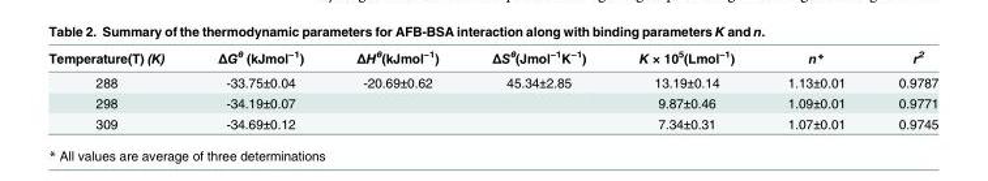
<table><thead><tr><td>Temperature(T) (K)</td><td>ΔG<sup>θ</sup> (kJmol<sup>−1</sup>)</td><td>ΔH<sup>θ</sup>(kJmol<sup>−1</sup>)</td><td>ΔS<sup>θ</sup>(Jmol<sup>−1</sup>K<sup>−1</sup>)</td><td>K × 10<sup>5</sup>(Lmol<sup>−1</sup>)</td><td>n*</td><td>r<sup>2</sup></td></tr></thead><tbody><tr><td>288</td><td>-33.75±0.04</td><td>-20.69±0.62</td><td>45.34±2.85</td><td>13.19±0.14</td><td>1.13±0.01</td><td>0.9787</td></tr><tr><td>298</td><td>-34.19±0.07</td><td></td><td></td><td>9.87±0.46</td><td>1.09±0.01</td><td>0.9771</td></tr><tr><td>309</td><td>-34.69±0.12</td><td></td><td></td><td>7.34±0.31</td><td>1.07±0.01</td><td>0.9745</td></tr></tbody></table>